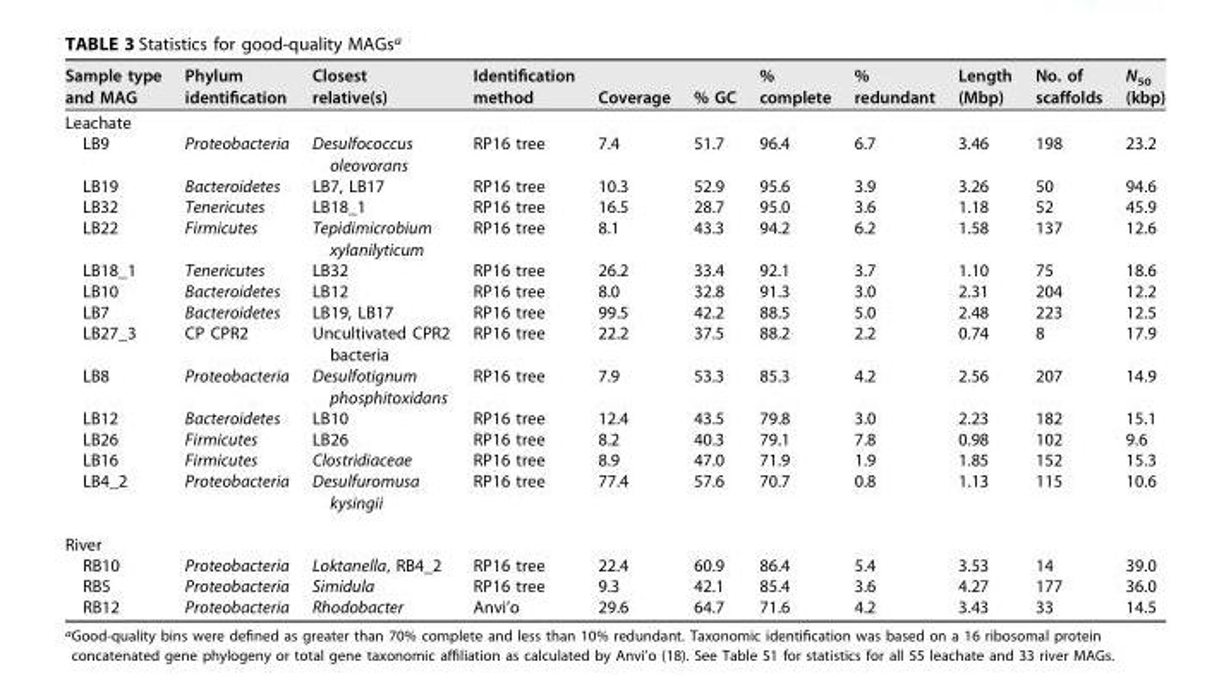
<table><thead><tr><td>Sample type and MAG</td><td>Phylum identification</td><td>Closest relative(s)</td><td>Identification method</td><td>Coverage</td><td>% GC</td><td>% complete</td><td>% redundant</td><td>Length (Mbp)</td><td>No. of scaffolds</td><td>N<sub>50</sub> (kbp)</td></tr></thead><tbody><tr><td colspan="11">Leachate</td></tr><tr><td>LB9</td><td>Proteobacteria</td><td>Desulfococcus oleovorans</td><td>RP16 tree</td><td>7.4</td><td>51.7</td><td>96.4</td><td>6.7</td><td>3.46</td><td>198</td><td>23.2</td></tr><tr><td>LB19</td><td>Bacteroidetes</td><td>LB7, LB17</td><td>RP16 tree</td><td>10.3</td><td>52.9</td><td>95.6</td><td>3.9</td><td>3.26</td><td>50</td><td>94.6</td></tr><tr><td>LB32</td><td>Tenericutes</td><td>LB18_1</td><td>RP16 tree</td><td>16.5</td><td>28.7</td><td>95.0</td><td>3.6</td><td>1.18</td><td>52</td><td>45.9</td></tr><tr><td>LB22</td><td>Firmicutes</td><td>Tepidimicrobium xylanilyticum</td><td>RP16 tree</td><td>8.1</td><td>43.3</td><td>94.2</td><td>6.2</td><td>1.58</td><td>137</td><td>12.6</td></tr><tr><td>LB18_1</td><td>Tenericutes</td><td>LB32</td><td>RP16 tree</td><td>26.2</td><td>33.4</td><td>92.1</td><td>3.7</td><td>1.10</td><td>75</td><td>18.6</td></tr><tr><td>LB10</td><td>Bacteroidetes</td><td>LB12</td><td>RP16 tree</td><td>8.0</td><td>32.8</td><td>91.3</td><td>3.0</td><td>2.31</td><td>204</td><td>12.2</td></tr><tr><td>LB7</td><td>Bacteroidetes</td><td>LB19, LB17</td><td>RP16 tree</td><td>99.5</td><td>42.2</td><td>88.5</td><td>5.0</td><td>2.48</td><td>223</td><td>12.5</td></tr><tr><td>LB27_3</td><td>CP CPR2</td><td>Uncultivated CPR2 bacteria</td><td>RP16 tree</td><td>22.2</td><td>37.5</td><td>88.2</td><td>2.2</td><td>0.74</td><td>8</td><td>17.9</td></tr><tr><td>LB8</td><td>Proteobacteria</td><td>Desulfotignum phosphitoxidans</td><td>RP16 tree</td><td>7.9</td><td>53.3</td><td>85.3</td><td>4.2</td><td>2.56</td><td>207</td><td>14.9</td></tr><tr><td>LB12</td><td>Bacteroidetes</td><td>LB10</td><td>RP16 tree</td><td>12.4</td><td>43.5</td><td>79.8</td><td>3.0</td><td>2.23</td><td>182</td><td>15.1</td></tr><tr><td>LB26</td><td>Firmicutes</td><td>LB26</td><td>RP16 tree</td><td>8.2</td><td>40.3</td><td>79.1</td><td>7.8</td><td>0.98</td><td>102</td><td>9.6</td></tr><tr><td>LB16</td><td>Firmicutes</td><td>Clostridiaceae</td><td>RP16 tree</td><td>8.9</td><td>47.0</td><td>71.9</td><td>1.9</td><td>1.85</td><td>152</td><td>15.3</td></tr><tr><td>LB4_2</td><td>Proteobacteria</td><td>Desulfuromusa kysingii</td><td>RP16 tree</td><td>77.4</td><td>57.6</td><td>70.7</td><td>0.8</td><td>1.13</td><td>115</td><td>10.6</td></tr><tr><td colspan="11">River</td></tr><tr><td>RB10</td><td>Proteobacteria</td><td>Loktanella, RB4_2</td><td>RP16 tree</td><td>22.4</td><td>60.9</td><td>86.4</td><td>5.4</td><td>3.53</td><td>14</td><td>39.0</td></tr><tr><td>RB5</td><td>Proteobacteria</td><td>Simidula</td><td>RP16 tree</td><td>9.3</td><td>42.1</td><td>85.4</td><td>3.6</td><td>4.27</td><td>177</td><td>36.0</td></tr><tr><td>RB12</td><td>Proteobacteria</td><td>Rhodobacter</td><td>Anvi’o</td><td>29.6</td><td>64.7</td><td>71.6</td><td>4.2</td><td>3.43</td><td>33</td><td>14.5</td></tr></tbody></table>